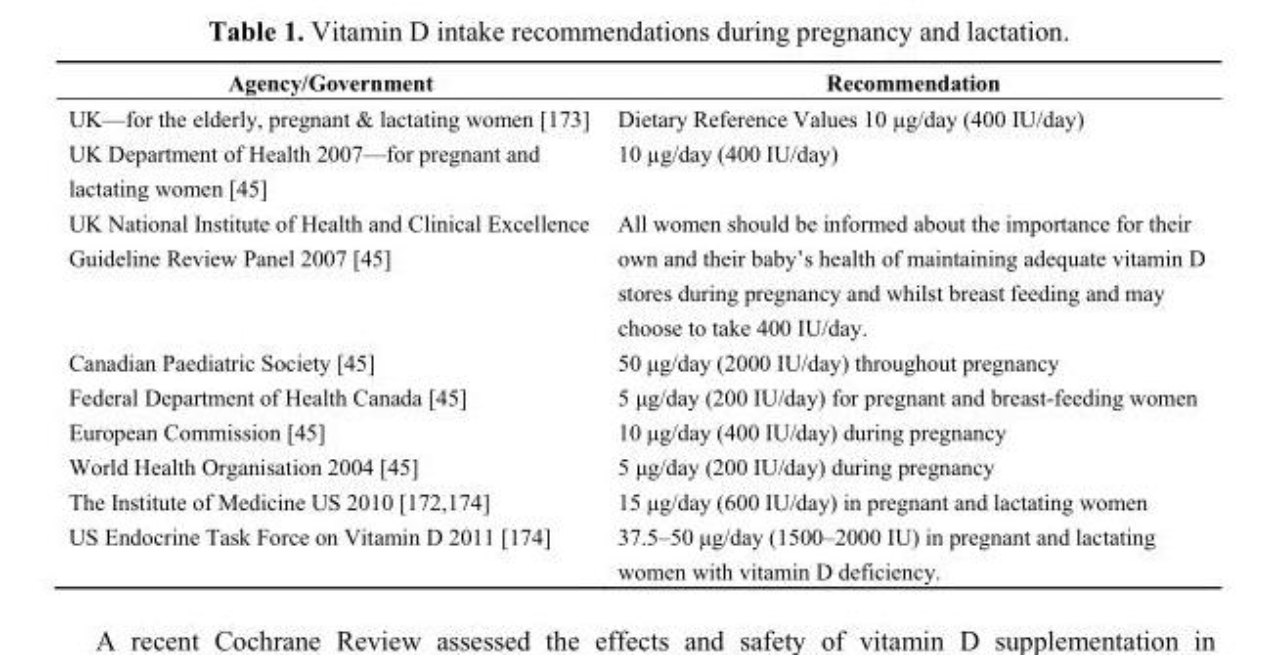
<table><thead><tr><td>Agency/Government</td><td>Recommendation</td></tr></thead><tbody><tr><td>UK—for the elderly, pregnant &amp; lactating women [173]</td><td>Dietary Reference Values 10 µg/day (400 IU/day)</td></tr><tr><td>UK Department of Health 2007—for pregnant and lactating women [45]</td><td>10 µg/day (400 IU/day)</td></tr><tr><td>UK National Institute of Health and Clinical Excellence Guideline Review Panel 2007 [45]</td><td>All women should be informed about the importance for their own and their baby’s health of maintaining adequate vitamin D stores during pregnancy and whilst breast feeding and may choose to take 400 IU/day.</td></tr><tr><td>Canadian Paediatric Society [45]</td><td>50 μg/day (2000 IU/day) throughout pregnancy</td></tr><tr><td>Federal Department of Health Canada [45]</td><td>5 μg/day (200 IU/day) for pregnant and breast-feeding women</td></tr><tr><td>European Commission [45]</td><td>10 μg/day (400 IU/day) during pregnancy</td></tr><tr><td>World Health Organisation 2004 [45]</td><td>5 μg/day (200 IU/day) during pregnancy</td></tr><tr><td>The Institute of Medicine US 2010 [172,174]</td><td>15 μg/day (600 IU/day) in pregnant and lactating women</td></tr><tr><td>US Endocrine Task Force on Vitamin D 2011 [174]</td><td>37.5–50 μg/day (1500–2000 IU) in pregnant and lactating women with vitamin D deficiency.</td></tr></tbody></table>